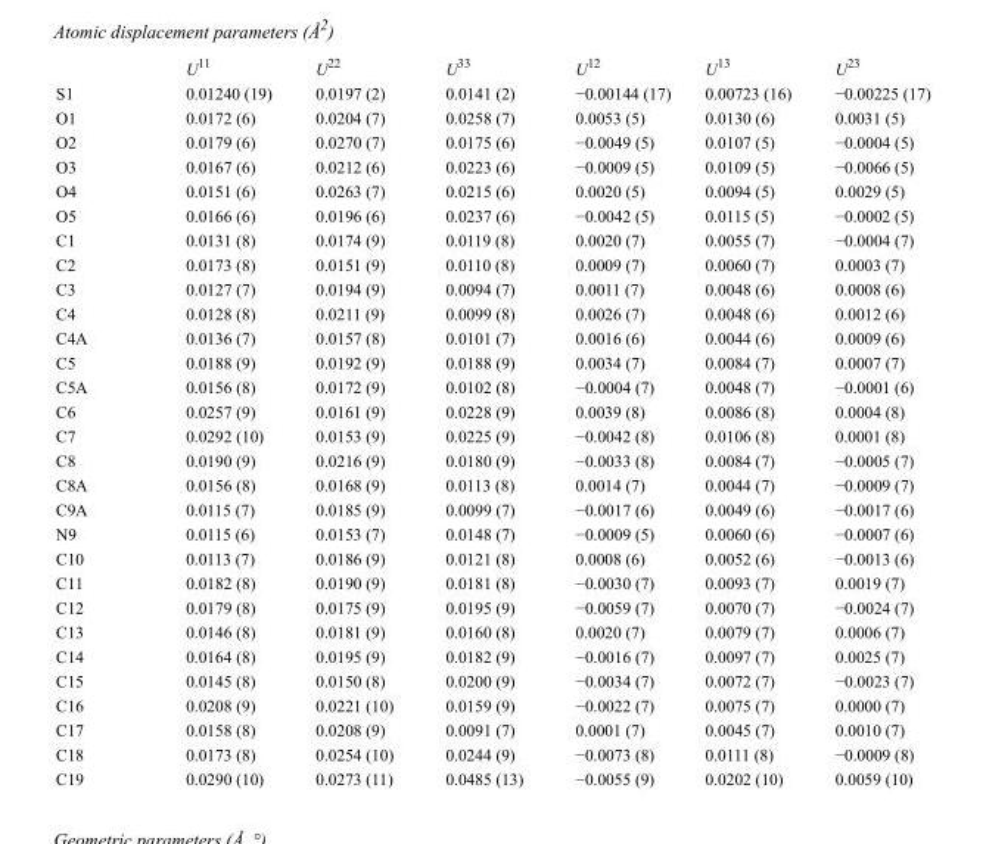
<table><thead><tr><td></td><td>U<sup>11</sup></td><td>U<sup>22</sup></td><td>U<sup>33</sup></td><td>U<sup>12</sup></td><td>U<sup>13</sup></td><td>U<sup>23</sup></td></tr></thead><tbody><tr><td>S1</td><td>0.01240 (19)</td><td>0.0197 (2)</td><td>0.0141 (2)</td><td>−0.00144 (17)</td><td>0.00723 (16)</td><td>−0.00225 (17)</td></tr><tr><td>O1</td><td>0.0172 (6)</td><td>0.0204 (7)</td><td>0.0258 (7)</td><td>0.0053 (5)</td><td>0.0130 (6)</td><td>0.0031 (5)</td></tr><tr><td>O2</td><td>0.0179 (6)</td><td>0.0270 (7)</td><td>0.0175 (6)</td><td>−0.0049 (5)</td><td>0.0107 (5)</td><td>−0.0004 (5)</td></tr><tr><td>O3</td><td>0.0167 (6)</td><td>0.0212 (6)</td><td>0.0223 (6)</td><td>−0.0009 (5)</td><td>0.0109 (5)</td><td>−0.0066 (5)</td></tr><tr><td>O4</td><td>0.0151 (6)</td><td>0.0263 (7)</td><td>0.0215 (6)</td><td>0.0020 (5)</td><td>0.0094 (5)</td><td>0.0029 (5)</td></tr><tr><td>O5</td><td>0.0166 (6)</td><td>0.0196 (6)</td><td>0.0237 (6)</td><td>−0.0042 (5)</td><td>0.0115 (5)</td><td>−0.0002 (5)</td></tr><tr><td>C1</td><td>0.0131 (8)</td><td>0.0174 (9)</td><td>0.0119 (8)</td><td>0.0020 (7)</td><td>0.0055 (7)</td><td>−0.0004 (7)</td></tr><tr><td>C2</td><td>0.0173 (8)</td><td>0.0151 (9)</td><td>0.0110 (8)</td><td>0.0009 (7)</td><td>0.0060 (7)</td><td>0.0003 (7)</td></tr><tr><td>C3</td><td>0.0127 (7)</td><td>0.0194 (9)</td><td>0.0094 (7)</td><td>0.0011 (7)</td><td>0.0048 (6)</td><td>0.0008 (6)</td></tr><tr><td>C4</td><td>0.0128 (8)</td><td>0.0211 (9)</td><td>0.0099 (8)</td><td>0.0026 (7)</td><td>0.0048 (6)</td><td>0.0012 (6)</td></tr><tr><td>C4A</td><td>0.0136 (7)</td><td>0.0157 (8)</td><td>0.0101 (7)</td><td>0.0016 (6)</td><td>0.0044 (6)</td><td>0.0009 (6)</td></tr><tr><td>C5</td><td>0.0188 (9)</td><td>0.0192 (9)</td><td>0.0188 (9)</td><td>0.0034 (7)</td><td>0.0084 (7)</td><td>0.0007 (7)</td></tr><tr><td>C5A</td><td>0.0156 (8)</td><td>0.0172 (9)</td><td>0.0102 (8)</td><td>−0.0004 (7)</td><td>0.0048 (7)</td><td>−0.0001 (6)</td></tr><tr><td>C6</td><td>0.0257 (9)</td><td>0.0161 (9)</td><td>0.0228 (9)</td><td>0.0039 (8)</td><td>0.0086 (8)</td><td>0.0004 (8)</td></tr><tr><td>C7</td><td>0.0292 (10)</td><td>0.0153 (9)</td><td>0.0225 (9)</td><td>−0.0042 (8)</td><td>0.0106 (8)</td><td>0.0001 (8)</td></tr><tr><td>C8</td><td>0.0190 (9)</td><td>0.0216 (9)</td><td>0.0180 (9)</td><td>−0.0033 (8)</td><td>0.0084 (7)</td><td>−0.0005 (7)</td></tr><tr><td>C8A</td><td>0.0156 (8)</td><td>0.0168 (9)</td><td>0.0113 (8)</td><td>0.0014 (7)</td><td>0.0044 (7)</td><td>−0.0009 (7)</td></tr><tr><td>C9A</td><td>0.0115 (7)</td><td>0.0185 (9)</td><td>0.0099 (7)</td><td>−0.0017 (6)</td><td>0.0049 (6)</td><td>−0.0017 (6)</td></tr><tr><td>N9</td><td>0.0115 (6)</td><td>0.0153 (7)</td><td>0.0148 (7)</td><td>−0.0009 (5)</td><td>0.0060 (6)</td><td>−0.0007 (6)</td></tr><tr><td>C10</td><td>0.0113 (7)</td><td>0.0186 (9)</td><td>0.0121 (8)</td><td>0.0008 (6)</td><td>0.0052 (6)</td><td>−0.0013 (6)</td></tr><tr><td>C11</td><td>0.0182 (8)</td><td>0.0190 (9)</td><td>0.0181 (8)</td><td>−0.0030 (7)</td><td>0.0093 (7)</td><td>0.0019 (7)</td></tr><tr><td>C12</td><td>0.0179 (8)</td><td>0.0175 (9)</td><td>0.0195 (9)</td><td>−0.0059 (7)</td><td>0.0070 (7)</td><td>−0.0024 (7)</td></tr><tr><td>C13</td><td>0.0146 (8)</td><td>0.0181 (9)</td><td>0.0160 (8)</td><td>0.0020 (7)</td><td>0.0079 (7)</td><td>0.0006 (7)</td></tr><tr><td>C14</td><td>0.0164 (8)</td><td>0.0195 (9)</td><td>0.0182 (9)</td><td>−0.0016 (7)</td><td>0.0097 (7)</td><td>0.0025 (7)</td></tr><tr><td>C15</td><td>0.0145 (8)</td><td>0.0150 (8)</td><td>0.0200 (9)</td><td>−0.0034 (7)</td><td>0.0072 (7)</td><td>−0.0023 (7)</td></tr><tr><td>C16</td><td>0.0208 (9)</td><td>0.0221 (10)</td><td>0.0159 (9)</td><td>−0.0022 (7)</td><td>0.0075 (7)</td><td>0.0000 (7)</td></tr><tr><td>C17</td><td>0.0158 (8)</td><td>0.0208 (9)</td><td>0.0091 (7)</td><td>0.0001 (7)</td><td>0.0045 (7)</td><td>0.0010 (7)</td></tr><tr><td>C18</td><td>0.0173 (8)</td><td>0.0254 (10)</td><td>0.0244 (9)</td><td>−0.0073 (8)</td><td>0.0111 (8)</td><td>−0.0009 (8)</td></tr><tr><td>C19</td><td>0.0290 (10)</td><td>0.0273 (11)</td><td>0.0485 (13)</td><td>−0.0055 (9)</td><td>0.0202 (10)</td><td>0.0059 (10)</td></tr></tbody></table>